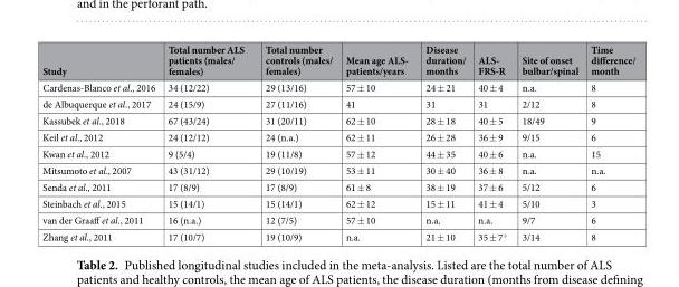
<table><thead><tr><td>Study</td><td>Total number ALS patients (males/ females)</td><td>Total number controls (males/ females)</td><td>Mean age ALS- patients/years</td><td>Disease duration/ months</td><td>ALS- FRS-R</td><td>Site of onset bulbar/spinal</td><td>Time difference/ month</td></tr></thead><tbody><tr><td>Cardenas-Blanco et al., 2016</td><td>34 (12/22)</td><td>29 (13/16)</td><td>57 ± 10</td><td>24 ± 21</td><td>40 ± 4</td><td>n.a.</td><td>8</td></tr><tr><td>de Albuquerque et al., 2017</td><td>24 (15/9)</td><td>27 (11/16)</td><td>41</td><td>31</td><td>31</td><td>2/12</td><td>8</td></tr><tr><td>Kassubek et al., 2018</td><td>67 (43/24)</td><td>31 (20/11)</td><td>62 ± 10</td><td>28 ± 18</td><td>40 ± 5</td><td>18/49</td><td>9</td></tr><tr><td>Keil et al., 2012</td><td>24 (12/12)</td><td>24 (n.a.)</td><td>62 ± 11</td><td>26 ± 28</td><td>36 ± 9</td><td>9/15</td><td>6</td></tr><tr><td>Kwan et al., 2012</td><td>9 (5/4)</td><td>19 (11/8)</td><td>57 ± 12</td><td>44 ± 35</td><td>40 ± 6</td><td>n.a.</td><td>15</td></tr><tr><td>Mitsumoto et al., 2007</td><td>43 (31/12)</td><td>29 (10/19)</td><td>53 ± 11</td><td>30 ± 40</td><td>36 ± 8</td><td>n.a.</td><td>n.a.</td></tr><tr><td>Senda et al., 2011</td><td>17 (8/9)</td><td>17 (8/9)</td><td>61 ± 8</td><td>38 ± 19</td><td>37 ± 6</td><td>5/12</td><td>6</td></tr><tr><td>Steinbach et al., 2015</td><td>15 (14/1)</td><td>15 (14/1)</td><td>62 ± 12</td><td>15 ± 11</td><td>41 ± 4</td><td>5/10</td><td>3</td></tr><tr><td>van der Graaff et al., 2011</td><td>16 (n.a.)</td><td>12 (7/5)</td><td>57 ± 10</td><td>n.a.</td><td>n.a.</td><td>9/7</td><td>6</td></tr><tr><td>Zhang et al., 2011</td><td>17 (10/7)</td><td>19 (10/9)</td><td>n.a.</td><td>21 ± 10</td><td>35 ± 7<sup>+</sup></td><td>3/14</td><td>8</td></tr></tbody></table>